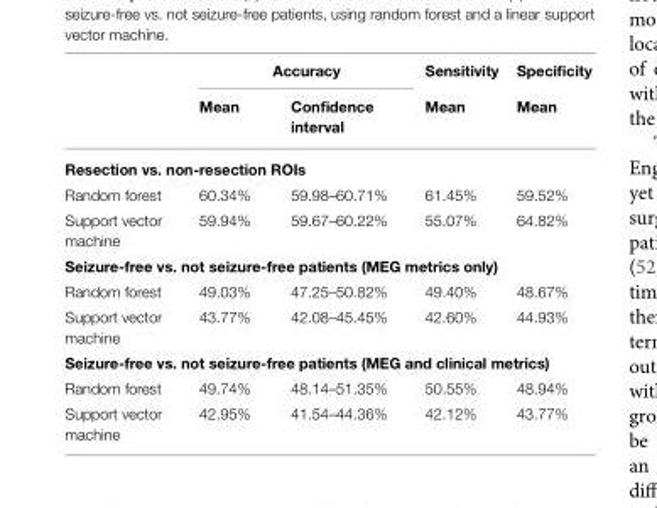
<table><thead><tr><td rowspan="2"></td><td colspan="2">Accuracy</td><td rowspan="2">Sensitivity Mean</td><td rowspan="2">Specificity Mean</td></tr><tr><td>Mean</td><td>Confidence interval</td></tr></thead><tbody><tr><td colspan="5">Resection vs. non-resection ROIs</td></tr><tr><td>Random forest</td><td>60.34%</td><td>59.98–60.71%</td><td>61.45%</td><td>59.52%</td></tr><tr><td>Support vector machine</td><td>59.94%</td><td>59.67–60.22%</td><td>55.07%</td><td>64.82%</td></tr><tr><td colspan="5">Seizure-free vs. not seizure-free patients (MEG metrics only)</td></tr><tr><td>Random forest</td><td>49.03%</td><td>47.25–50.82%</td><td>49.40%</td><td>48.67%</td></tr><tr><td>Support vector machine</td><td>43.77%</td><td>42.08–45.45%</td><td>42.60%</td><td>44.93%</td></tr><tr><td colspan="5">Seizure-free vs. not seizure-free patients (MEG and clinical metrics)</td></tr><tr><td>Random forest</td><td>49.74%</td><td>48.14–51.35%</td><td>50.55%</td><td>48.94%</td></tr><tr><td>Support vector machine</td><td>42.95%</td><td>41.54–44.36%</td><td>42.12%</td><td>43.77%</td></tr></tbody></table>